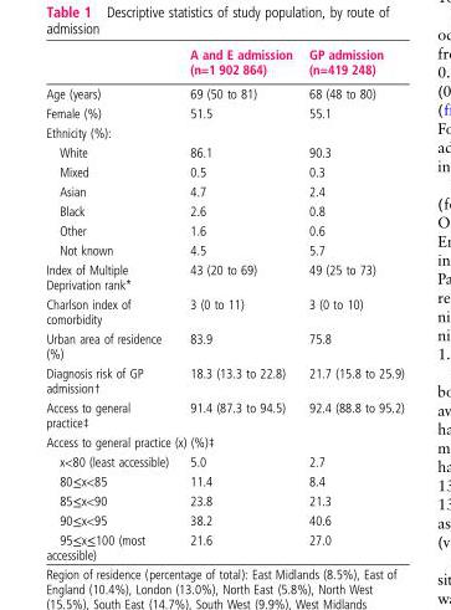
<table><thead><tr><td></td><td>A and E admission (n=1 902 864)</td><td>GP admission (n=419 248)</td></tr></thead><tbody><tr><td>Age (years)</td><td>69 (50 to 81)</td><td>68 (48 to 80)</td></tr><tr><td>Female (%)</td><td>51.5</td><td>55.1</td></tr><tr><td colspan="3">Ethnicity (%):</td></tr><tr><td>White</td><td>86.1</td><td>90.3</td></tr><tr><td>Mixed</td><td>0.5</td><td>0.3</td></tr><tr><td>Asian</td><td>4.7</td><td>2.4</td></tr><tr><td>Black</td><td>2.6</td><td>0.8</td></tr><tr><td>Other</td><td>1.6</td><td>0.6</td></tr><tr><td>Not known</td><td>4.5</td><td>5.7</td></tr><tr><td>Index of Multiple Deprivation rank*</td><td>43 (20 to 69)</td><td>49 (25 to 73)</td></tr><tr><td>Charlson index of comorbidity</td><td>3 (0 to 11)</td><td>3 (0 to 10)</td></tr><tr><td>Urban area of residence (%)</td><td>83.9</td><td>75.8</td></tr><tr><td>Diagnosis risk of GP admission†</td><td>18.3 (13.3 to 22.8)</td><td>21.7 (15.8 to 25.9)</td></tr><tr><td>Access to general practice‡</td><td>91.4 (87.3 to 94.5)</td><td>92.4 (88.8 to 95.2)</td></tr><tr><td colspan="3">Access to general practice (x) (%)‡</td></tr><tr><td>x&lt;80 (least accessible)</td><td>5.0</td><td>2.7</td></tr><tr><td>80≤x&lt;85</td><td>11.4</td><td>8.4</td></tr><tr><td>85≤x&lt;90</td><td>23.8</td><td>21.3</td></tr><tr><td>90≤x&lt;95</td><td>38.2</td><td>40.6</td></tr><tr><td>95≤x≤100 (most accessible)</td><td>21.6</td><td>27.0</td></tr></tbody></table>